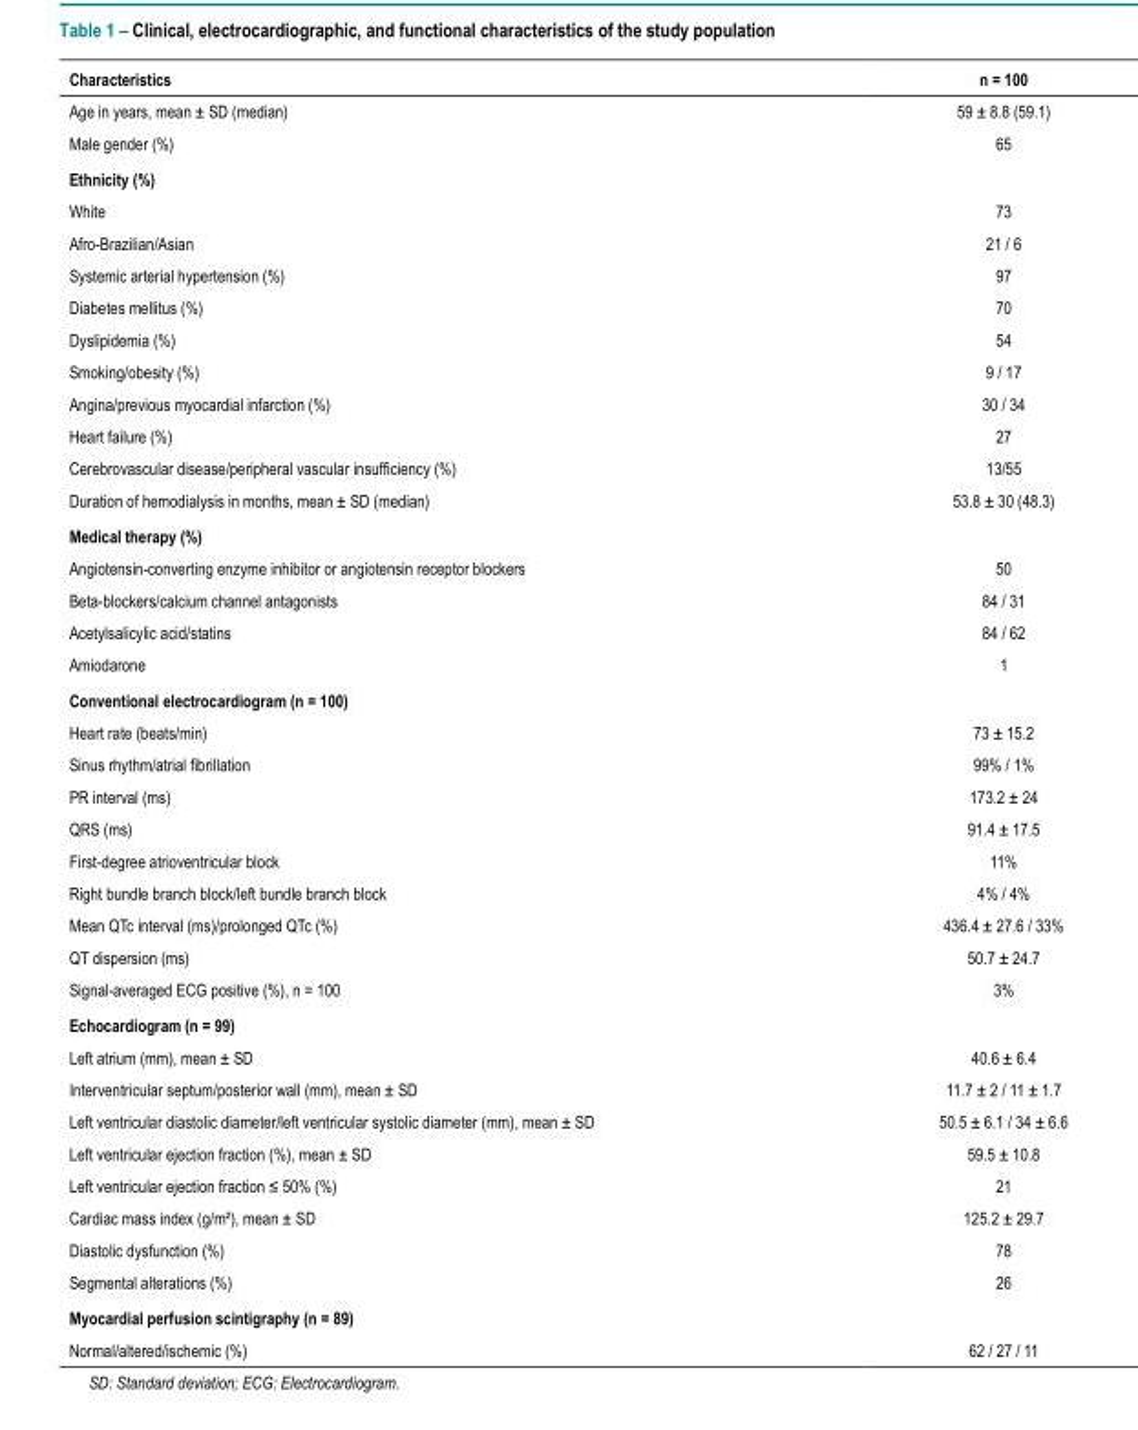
<table><thead><tr><td>Characteristics</td><td>n = 100</td></tr></thead><tbody><tr><td>Age in years, mean ± SD (median)</td><td>59 ± 8.8 (59.1)</td></tr><tr><td>Male gender (%)</td><td>65</td></tr><tr><td colspan="2">Ethnicity (%)</td></tr><tr><td>White</td><td>73</td></tr><tr><td>Afro-Brazilian/Asian</td><td>21 / 6</td></tr><tr><td>Systemic arterial hypertension (%)</td><td>97</td></tr><tr><td>Diabetes mellitus (%)</td><td>70</td></tr><tr><td>Dyslipidemia (%)</td><td>54</td></tr><tr><td>Smoking/obesity (%)</td><td>9 / 17</td></tr><tr><td>Angina/previous myocardial infarction (%)</td><td>30 / 34</td></tr><tr><td>Heart failure (%)</td><td>27</td></tr><tr><td>Cerebrovascular disease/peripheral vascular insufficiency (%)</td><td>13/55</td></tr><tr><td>Duration of hemodialysis in months, mean ± SD (median)</td><td>53.8 ± 30 (48.3)</td></tr><tr><td colspan="2">Medical therapy (%)</td></tr><tr><td>Angiotensin-converting enzyme inhibitor or angiotensin receptor blockers</td><td>50</td></tr><tr><td>Beta-blockers/calcium channel antagonists</td><td>84 / 31</td></tr><tr><td>Acetylsalicylic acid/statins</td><td>84 / 62</td></tr><tr><td>Amiodarone</td><td>1</td></tr><tr><td colspan="2">Conventional electrocardiogram (n = 100)</td></tr><tr><td>Heart rate (beats/min)</td><td>73 ± 15.2</td></tr><tr><td>Sinus rhythm/atrial fibrillation</td><td>99% / 1%</td></tr><tr><td>PR interval (ms)</td><td>173.2 ± 24</td></tr><tr><td>QRS (ms)</td><td>91.4 ± 17.5</td></tr><tr><td>First-degree atrioventricular block</td><td>11%</td></tr><tr><td>Right bundle branch block/left bundle branch block</td><td>4% / 4%</td></tr><tr><td>Mean QTc interval (ms)/prolonged QTc (%)</td><td>436.4 ± 27.6 / 33%</td></tr><tr><td>QT dispersion (ms)</td><td>50.7 ± 24.7</td></tr><tr><td>Signal-averaged ECG positive (%), n = 100</td><td>3%</td></tr><tr><td colspan="2">Echocardiogram (n = 99)</td></tr><tr><td>Left atrium (mm), mean ± SD</td><td>40.6 ± 6.4</td></tr><tr><td>Interventricular septum/posterior wall (mm), mean ± SD</td><td>11.7 ± 2 / 11 ± 1.7</td></tr><tr><td>Left ventricular diastolic diameter/left ventricular systolic diameter (mm), mean ± SD</td><td>50.5 ± 6.1 / 34 ± 6.6</td></tr><tr><td>Left ventricular ejection fraction (%), mean ± SD</td><td>59.5 ± 10.8</td></tr><tr><td>Left ventricular ejection fraction ≤ 50% (%)</td><td>21</td></tr><tr><td>Cardiac mass index (g/m²), mean ± SD</td><td>125.2 ± 29.7</td></tr><tr><td>Diastolic dysfunction (%)</td><td>78</td></tr><tr><td>Segmental alterations (%)</td><td>26</td></tr><tr><td colspan="2">Myocardial perfusion scintigraphy (n = 89)</td></tr><tr><td>Normal/altered/ischemic (%)</td><td>62 / 27 / 11</td></tr></tbody></table>